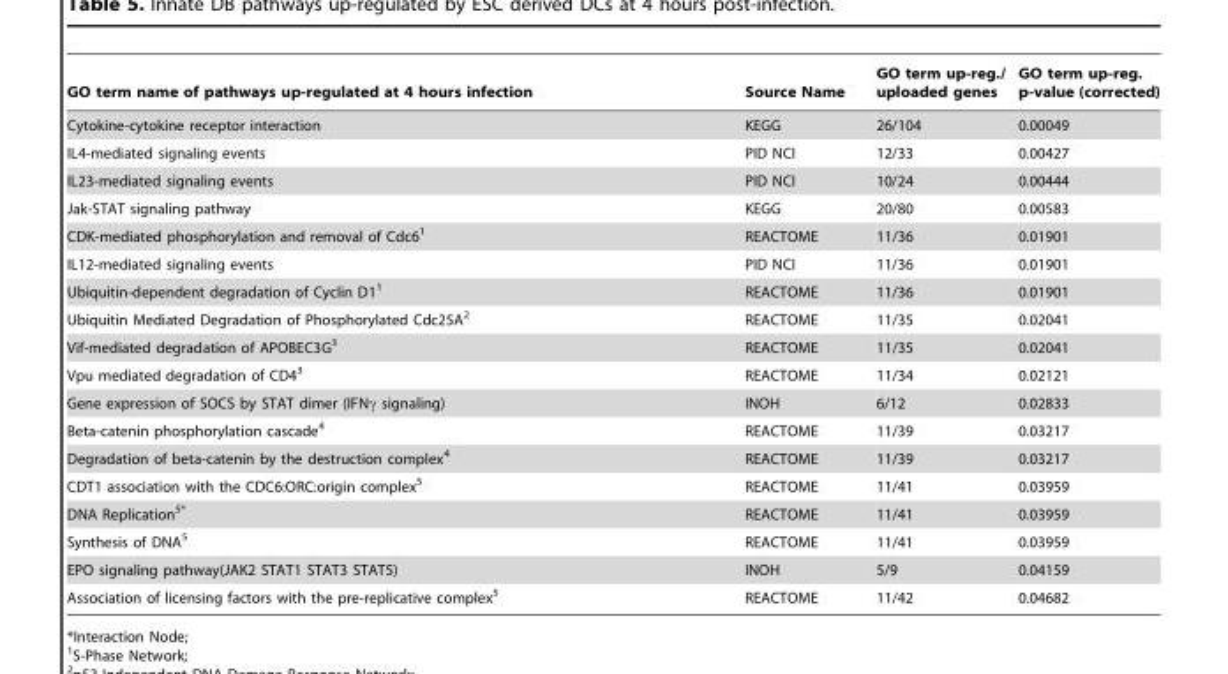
<table><thead><tr><td>GO term name of pathways up-regulated at 4 hours infection</td><td>Source Name</td><td>GO term up-reg./ uploaded genes</td><td>GO term up-reg. p-value (corrected)</td></tr></thead><tbody><tr><td>Cytokine-cytokine receptor interaction</td><td>KEGG</td><td>26/104</td><td>0.00049</td></tr><tr><td>IL4-mediated signaling events</td><td>PID NCI</td><td>12/33</td><td>0.00427</td></tr><tr><td>IL23-mediated signaling events</td><td>PID NCI</td><td>10/24</td><td>0.00444</td></tr><tr><td>Jak-STAT signaling pathway</td><td>KEGG</td><td>20/80</td><td>0.00583</td></tr><tr><td>CDK-mediated phosphorylation and removal of Cdc6<sup>1</sup></td><td>REACTOME</td><td>11/36</td><td>0.01901</td></tr><tr><td>IL12-mediated signaling events</td><td>PID NCI</td><td>11/36</td><td>0.01901</td></tr><tr><td>Ubiquitin-dependent degradation of Cyclin D1<sup>1</sup></td><td>REACTOME</td><td>11/36</td><td>0.01901</td></tr><tr><td>Ubiquitin Mediated Degradation of Phosphorylated Cdc25A<sup>2</sup></td><td>REACTOME</td><td>11/35</td><td>0.02041</td></tr><tr><td>Vif-mediated degradation of APOBEC3G<sup>3</sup></td><td>REACTOME</td><td>11/35</td><td>0.02041</td></tr><tr><td>Vpu mediated degradation of CD4<sup>3</sup></td><td>REACTOME</td><td>11/34</td><td>0.02121</td></tr><tr><td>Gene expression of SOCS by STAT dimer (IFNγ signaling)</td><td>INOH</td><td>6/12</td><td>0.02833</td></tr><tr><td>Beta-catenin phosphorylation cascade<sup>4</sup></td><td>REACTOME</td><td>11/39</td><td>0.03217</td></tr><tr><td>Degradation of beta-catenin by the destruction complex<sup>4</sup></td><td>REACTOME</td><td>11/39</td><td>0.03217</td></tr><tr><td>CDT1 association with the CDC6:ORC:origin complex<sup>5</sup></td><td>REACTOME</td><td>11/41</td><td>0.03959</td></tr><tr><td>DNA Replication<sup>5</sup>*</td><td>REACTOME</td><td>11/41</td><td>0.03959</td></tr><tr><td>Synthesis of DNA<sup>5</sup></td><td>REACTOME</td><td>11/41</td><td>0.03959</td></tr><tr><td>EPO signaling pathway(JAK2 STAT1 STAT3 STAT5)</td><td>INOH</td><td>5/9</td><td>0.04159</td></tr><tr><td>Association of licensing factors with the pre-replicative complex<sup>5</sup></td><td>REACTOME</td><td>11/42</td><td>0.04682</td></tr></tbody></table>